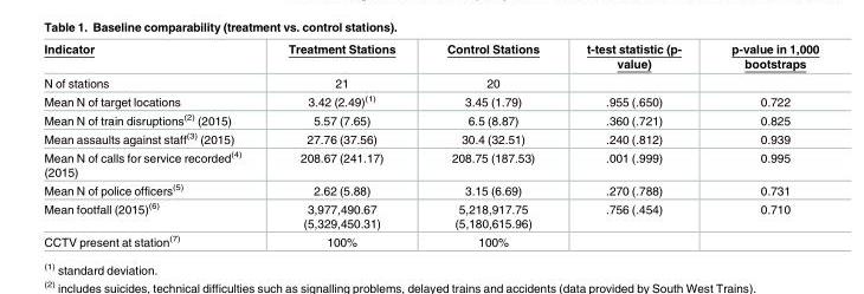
<table><thead><tr><td>Indicator</td><td>Treatment Stations</td><td>Control Stations</td><td>t-test statistic (p- value)</td><td>p-value in 1,000 bootstraps</td></tr></thead><tbody><tr><td>N of stations</td><td>21</td><td>20</td><td></td><td></td></tr><tr><td>Mean N of target locations</td><td>3.42 (2.49)<sup>(1)</sup></td><td>3.45 (1.79)</td><td>.955 (.650)</td><td>0.722</td></tr><tr><td>Mean N of train disruptions<sup>(2)</sup> (2015)</td><td>5.57 (7.65)</td><td>6.5 (8.87)</td><td>.360 (.721)</td><td>0.825</td></tr><tr><td>Mean assaults against staff<sup>(3)</sup> (2015)</td><td>27.76 (37.56)</td><td>30.4 (32.51)</td><td>.240 (.812)</td><td>0.939</td></tr><tr><td>Mean N of calls for service recorded<sup>(4)</sup> (2015)</td><td>208.67 (241.17)</td><td>208.75 (187.53)</td><td>.001 (.999)</td><td>0.995</td></tr><tr><td>Mean N of police officers<sup>(5)</sup></td><td>2.62 (5.88)</td><td>3.15 (6.69)</td><td>.270 (.788)</td><td>0.731</td></tr><tr><td>Mean footfall (2015)<sup>(6)</sup></td><td>3,977,490.67 (5,329,450.31)</td><td>5,218,917.75 (5,180,615.96)</td><td>.756 (.454)</td><td>0.710</td></tr><tr><td>CCTV present at station<sup>(7)</sup></td><td>100%</td><td>100%</td><td></td><td></td></tr></tbody></table>